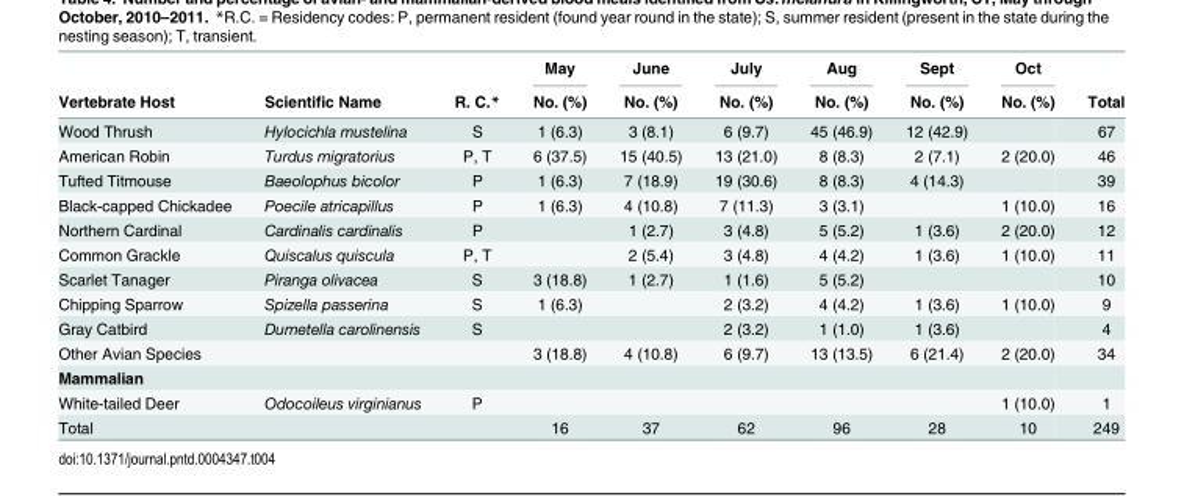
<table><thead><tr><td rowspan="2">Vertebrate Host</td><td rowspan="2">Scientific Name</td><td rowspan="2">R. C.*</td><td rowspan="2">May No. (%)</td><td rowspan="2">June No. (%)</td><td rowspan="2">July No. (%)</td><td rowspan="2">Aug No. (%)</td><td rowspan="2">Sept No. (%)</td><td rowspan="2">Oct No. (%)</td><td rowspan="2">Total</td></tr><tr></tr></thead><tbody><tr><td>Wood Thrush</td><td>Hylocichla mustelina</td><td>S</td><td>1 (6.3)</td><td>3 (8.1)</td><td>6 (9.7)</td><td>45 (46.9)</td><td>12 (42.9)</td><td></td><td>67</td></tr><tr><td>American Robin</td><td>Turdus migratorius</td><td>P, T</td><td>6 (37.5)</td><td>15 (40.5)</td><td>13 (21.0)</td><td>8 (8.3)</td><td>2 (7.1)</td><td>2 (20.0)</td><td>46</td></tr><tr><td>Tufted Titmouse</td><td>Baeolophus bicolor</td><td>P</td><td>1 (6.3)</td><td>7 (18.9)</td><td>19 (30.6)</td><td>8 (8.3)</td><td>4 (14.3)</td><td></td><td>39</td></tr><tr><td>Black-capped Chickadee</td><td>Poecile atricapillus</td><td>P</td><td>1 (6.3)</td><td>4 (10.8)</td><td>7 (11.3)</td><td>3 (3.1)</td><td></td><td>1 (10.0)</td><td>16</td></tr><tr><td>Northern Cardinal</td><td>Cardinalis cardinalis</td><td>P</td><td></td><td>1 (2.7)</td><td>3 (4.8)</td><td>5 (5.2)</td><td>1 (3.6)</td><td>2 (20.0)</td><td>12</td></tr><tr><td>Common Grackle</td><td>Quiscalus quiscula</td><td>P, T</td><td></td><td>2 (5.4)</td><td>3 (4.8)</td><td>4 (4.2)</td><td>1 (3.6)</td><td>1 (10.0)</td><td>11</td></tr><tr><td>Scarlet Tanager</td><td>Piranga olivacea</td><td>S</td><td>3 (18.8)</td><td>1 (2.7)</td><td>1 (1.6)</td><td>5 (5.2)</td><td></td><td></td><td>10</td></tr><tr><td>Chipping Sparrow</td><td>Spizella passerina</td><td>S</td><td>1 (6.3)</td><td></td><td>2 (3.2)</td><td>4 (4.2)</td><td>1 (3.6)</td><td>1 (10.0)</td><td>9</td></tr><tr><td>Gray Catbird</td><td>Dumetella carolinensis</td><td>S</td><td></td><td></td><td>2 (3.2)</td><td>1 (1.0)</td><td>1 (3.6)</td><td></td><td>4</td></tr><tr><td>Other Avian Species</td><td></td><td></td><td>3 (18.8)</td><td>4 (10.8)</td><td>6 (9.7)</td><td>13 (13.5)</td><td>6 (21.4)</td><td>2 (20.0)</td><td>34</td></tr><tr><td colspan="10">Mammalian</td></tr><tr><td>White-tailed Deer</td><td>Odocoileus virginianus</td><td>P</td><td></td><td></td><td></td><td></td><td></td><td>1 (10.0)</td><td>1</td></tr><tr><td colspan="2">Total</td><td></td><td>16</td><td>37</td><td>62</td><td>96</td><td>28</td><td>10</td><td>249</td></tr></tbody></table>